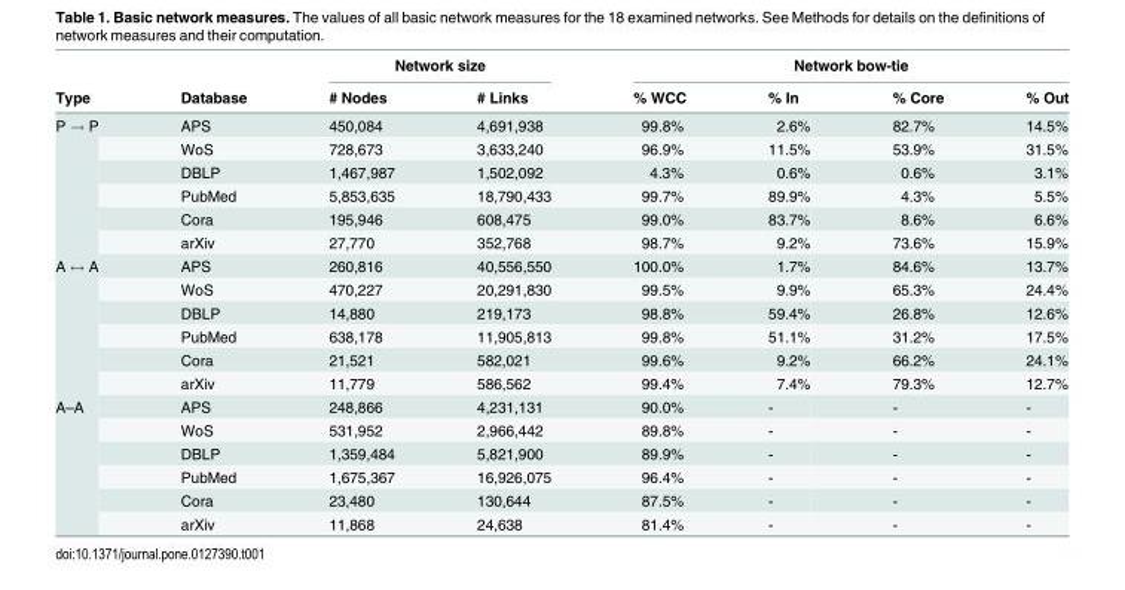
<table><thead><tr><td rowspan="2">Type</td><td rowspan="2">Database</td><td colspan="2">Network size</td><td colspan="4">Network bow-tie</td></tr><tr><td># Nodes</td><td># Links</td><td>% WCC</td><td>% In</td><td>% Core</td><td>% Out</td></tr></thead><tbody><tr><td rowspan="6">P → P</td><td>APS</td><td>450,084</td><td>4,691,938</td><td>99.8%</td><td>2.6%</td><td>82.7%</td><td>14.5%</td></tr><tr><td>WoS</td><td>728,673</td><td>3,633,240</td><td>96.9%</td><td>11.5%</td><td>53.9%</td><td>31.5%</td></tr><tr><td>DBLP</td><td>1,467,987</td><td>1,502,092</td><td>4.3%</td><td>0.6%</td><td>0.6%</td><td>3.1%</td></tr><tr><td>PubMed</td><td>5,853,635</td><td>18,790,433</td><td>99.7%</td><td>89.9%</td><td>4.3%</td><td>5.5%</td></tr><tr><td>Cora</td><td>195,946</td><td>608,475</td><td>99.0%</td><td>83.7%</td><td>8.6%</td><td>6.6%</td></tr><tr><td>arXiv</td><td>27,770</td><td>352,768</td><td>98.7%</td><td>9.2%</td><td>73.6%</td><td>15.9%</td></tr><tr><td rowspan="6">A ↔ A</td><td>APS</td><td>260,816</td><td>40,556,550</td><td>100.0%</td><td>1.7%</td><td>84.6%</td><td>13.7%</td></tr><tr><td>WoS</td><td>470,227</td><td>20,291,830</td><td>99.5%</td><td>9.9%</td><td>65.3%</td><td>24.4%</td></tr><tr><td>DBLP</td><td>14,880</td><td>219,173</td><td>98.8%</td><td>59.4%</td><td>26.8%</td><td>12.6%</td></tr><tr><td>PubMed</td><td>638,178</td><td>11,905,813</td><td>99.8%</td><td>51.1%</td><td>31.2%</td><td>17.5%</td></tr><tr><td>Cora</td><td>21,521</td><td>582,021</td><td>99.6%</td><td>9.2%</td><td>66.2%</td><td>24.1%</td></tr><tr><td>arXiv</td><td>11,779</td><td>586,562</td><td>99.4%</td><td>7.4%</td><td>79.3%</td><td>12.7%</td></tr><tr><td rowspan="6">A–A</td><td>APS</td><td>248,866</td><td>4,231,131</td><td>90.0%</td><td>-</td><td>-</td><td>-</td></tr><tr><td>WoS</td><td>531,952</td><td>2,966,442</td><td>89.8%</td><td>-</td><td>-</td><td>-</td></tr><tr><td>DBLP</td><td>1,359,484</td><td>5,821,900</td><td>89.9%</td><td>-</td><td>-</td><td>-</td></tr><tr><td>PubMed</td><td>1,675,367</td><td>16,926,075</td><td>96.4%</td><td>-</td><td>-</td><td>-</td></tr><tr><td>Cora</td><td>23,480</td><td>130,644</td><td>87.5%</td><td>-</td><td>-</td><td>-</td></tr><tr><td>arXiv</td><td>11,868</td><td>24,638</td><td>81.4%</td><td>-</td><td>-</td><td>-</td></tr></tbody></table>